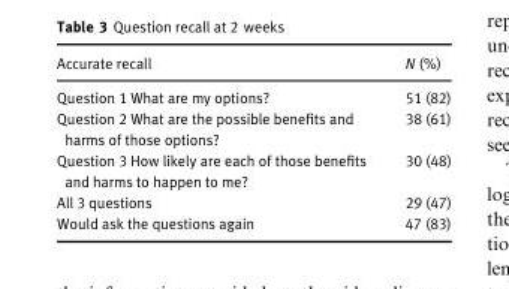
<table><thead><tr><td>Accurate recall</td><td>N (%)</td></tr></thead><tbody><tr><td>Question 1 What are my options?</td><td>51 (82)</td></tr><tr><td>Question 2 What are the possible benefits and harms of those options?</td><td>38 (61)</td></tr><tr><td>Question 3 How likely are each of those benefits and harms to happen to me?</td><td>30 (48)</td></tr><tr><td>All 3 questions</td><td>29 (47)</td></tr><tr><td>Would ask the questions again</td><td>47 (83)</td></tr></tbody></table>